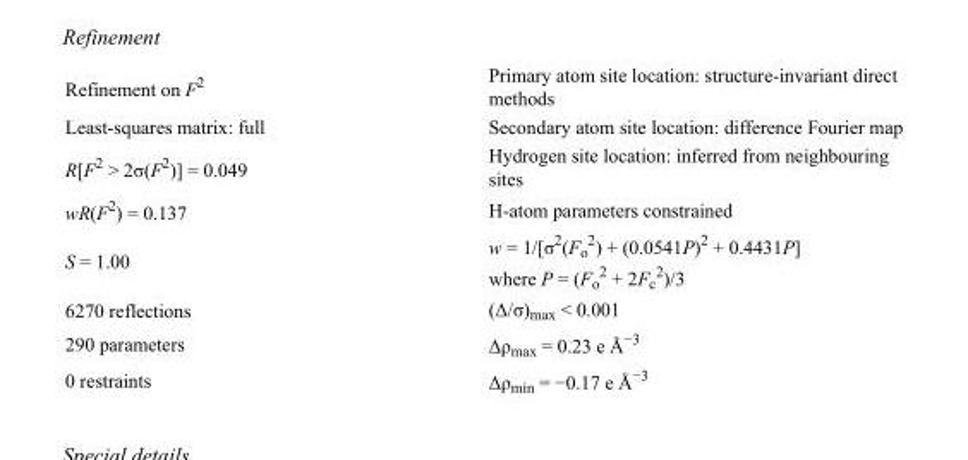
<table><tbody><tr><td>Refinement on F<sup>2</sup></td><td>Primary atom site location: structure-invariant direct methods</td></tr><tr><td>Least-squares matrix: full</td><td>Secondary atom site location: difference Fourier map</td></tr><tr><td>R[F<sup>2</sup> &gt; 2σ(F<sup>2</sup>)] = 0.049</td><td>Hydrogen site location: inferred from neighbouring sites</td></tr><tr><td>wR(F<sup>2</sup>) = 0.137</td><td>H-atom parameters constrained</td></tr><tr><td>S = 1.00</td><td>w = 1/[σ<sup>2</sup>(F<sub>o</sub> <sup>2</sup>) + (0.0541P)<sup>2</sup> + 0.4431P] where P = (F<sub>o</sub> <sup>2</sup> + 2F<sub>c</sub> <sup>2</sup>)/3</td></tr><tr><td>6270 reflections</td><td>(Δ/σ)<sub>max</sub> &lt; 0.001</td></tr><tr><td>290 parameters</td><td>Δρ<sub>max</sub> = 0.23 e Å<sup>−3</sup></td></tr><tr><td>0 restraints</td><td>Δρ<sub>min</sub> = −0.17 e Å<sup>−3</sup></td></tr></tbody></table>